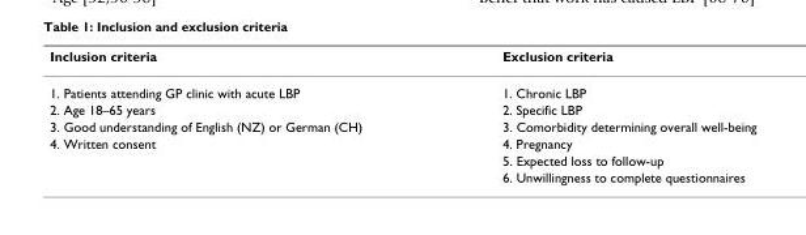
<table><thead><tr><td>Inclusion criteria</td><td>Exclusion criteria</td></tr></thead><tbody><tr><td>1. Patients attending GP clinic with acute LBP</td><td>1. Chronic LBP</td></tr><tr><td>2. Age 18–65 years</td><td>2. Specific LBP</td></tr><tr><td>3. Good understanding of English (NZ) or German (CH)</td><td>3. Comorbidity determining overall well-being</td></tr><tr><td rowspan="3">4. Written consent</td><td>4. Pregnancy</td></tr><tr><td>5. Expected loss to follow-up</td></tr><tr><td>6. Unwillingness to complete questionnaires</td></tr></tbody></table>